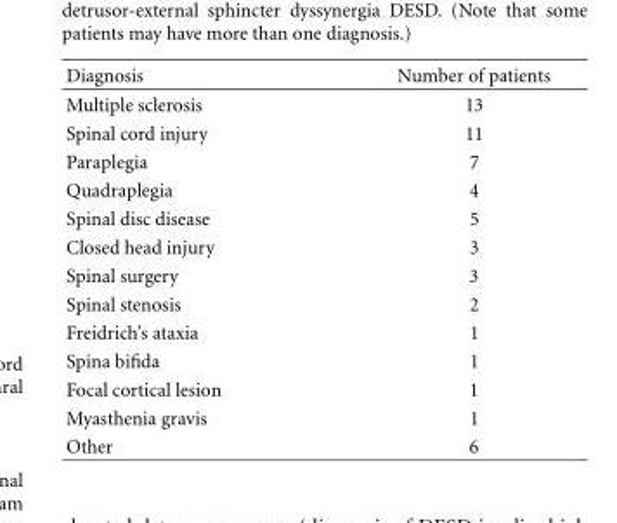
<table><thead><tr><td>Diagnosis</td><td>Number of patients</td></tr></thead><tbody><tr><td>Multiple sclerosis</td><td>13</td></tr><tr><td>Spinal cord injury</td><td>11</td></tr><tr><td>Paraplegia</td><td>7</td></tr><tr><td>Quadraplegia</td><td>4</td></tr><tr><td>Spinal disc disease</td><td>5</td></tr><tr><td>Closed head injury</td><td>3</td></tr><tr><td>Spinal surgery</td><td>3</td></tr><tr><td>Spinal stenosis</td><td>2</td></tr><tr><td>Freidrich’s ataxia</td><td>1</td></tr><tr><td>Spina bifida</td><td>1</td></tr><tr><td>Focal cortical lesion</td><td>1</td></tr><tr><td>Myasthenia gravis</td><td>1</td></tr><tr><td>Other</td><td>6</td></tr></tbody></table>